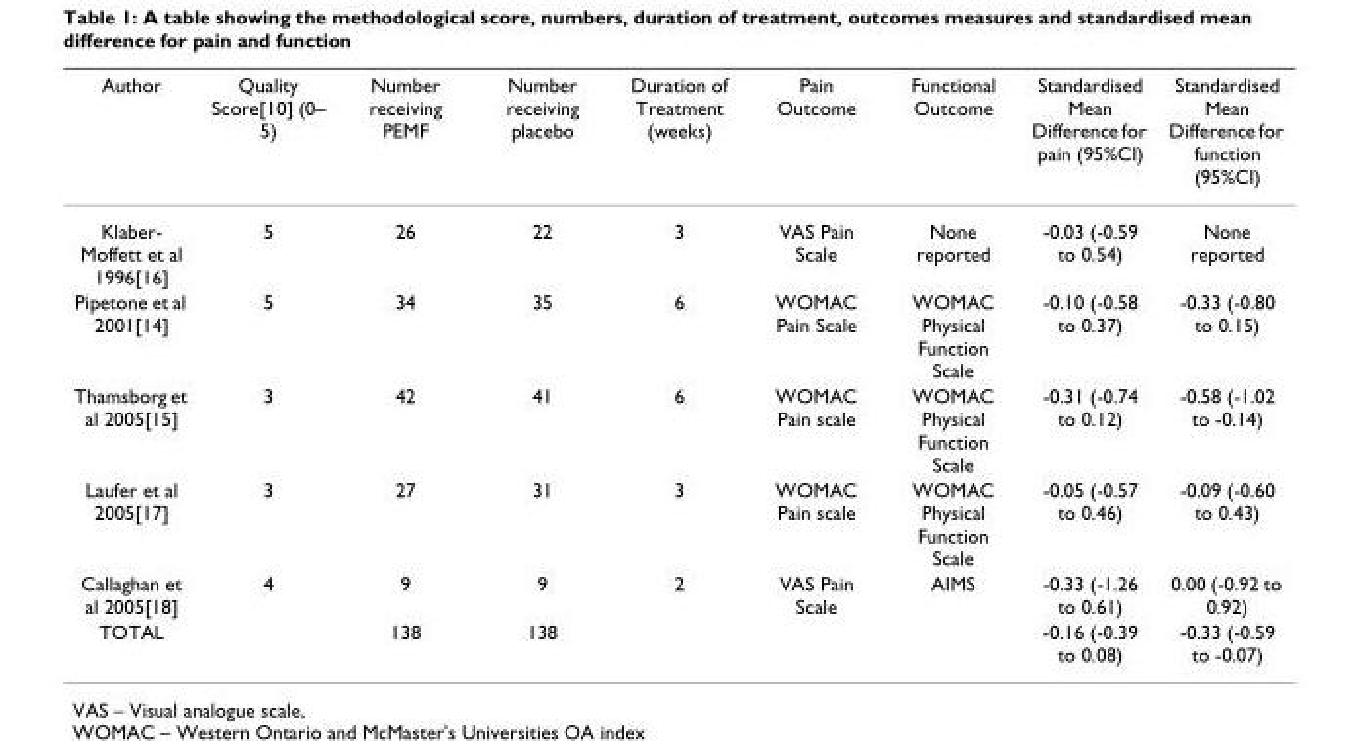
<table><thead><tr><td>Author</td><td>Quality Score[10] (0– 5)</td><td>Number receiving PEMF</td><td>Number receiving placebo</td><td>Duration of Treatment (weeks)</td><td>Pain Outcome</td><td>Functional Outcome</td><td>Standardised Mean Difference for pain (95%CI)</td><td>Standardised Mean Difference for function (95%CI)</td></tr></thead><tbody><tr><td>Klaber- Moffett et al 1996[16]</td><td>5</td><td>26</td><td>22</td><td>3</td><td>VAS Pain Scale</td><td>None reported</td><td>-0.03 (-0.59 to 0.54)</td><td>None reported</td></tr><tr><td>Pipetone et al 2001[14]</td><td>5</td><td>34</td><td>35</td><td>6</td><td>WOMAC Pain Scale</td><td>WOMAC Physical Function Scale</td><td>-0.10 (-0.58 to 0.37)</td><td>-0.33 (-0.80 to 0.15)</td></tr><tr><td>Thamsborg et al 2005[15]</td><td>3</td><td>42</td><td>41</td><td>6</td><td>WOMAC Pain scale</td><td>WOMAC Physical Function Scale</td><td>-0.31 (-0.74 to 0.12)</td><td>-0.58 (-1.02 to -0.14)</td></tr><tr><td>Laufer et al 2005[17]</td><td>3</td><td>27</td><td>31</td><td>3</td><td>WOMAC Pain scale</td><td>WOMAC Physical Function Scale</td><td>-0.05 (-0.57 to 0.46)</td><td>-0.09 (-0.60 to 0.43)</td></tr><tr><td>Callaghan et al 2005[18]</td><td>4</td><td>9</td><td>9</td><td>2</td><td>VAS Pain Scale</td><td>AIMS</td><td>-0.33 (-1.26 to 0.61)</td><td>0.00 (-0.92 to 0.92)</td></tr><tr><td>TOTAL</td><td></td><td>138</td><td>138</td><td></td><td></td><td></td><td>-0.16 (-0.39 to 0.08)</td><td>-0.33 (-0.59 to -0.07)</td></tr></tbody></table>